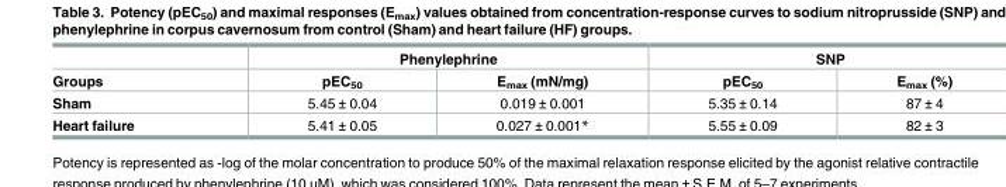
<table><thead><tr><td rowspan="2">Groups</td><td colspan="2">Phenylephrine</td><td colspan="2">SNP</td></tr><tr><td>pEC<sub>50</sub></td><td>E<sub>max</sub> (mN/mg)</td><td>pEC<sub>50</sub></td><td>E<sub>max</sub> (%)</td></tr></thead><tbody><tr><td>Sham</td><td>5.45 ± 0.04</td><td>0.019 ± 0.001</td><td>5.35 ± 0.14</td><td>87 ± 4</td></tr><tr><td>Heart failure</td><td>5.41 ± 0.05</td><td>0.027 ± 0.001*</td><td>5.55 ± 0.09</td><td>82 ± 3</td></tr></tbody></table>